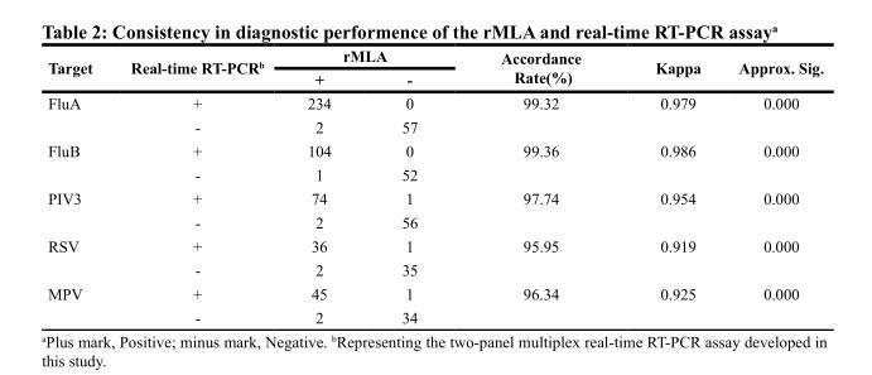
<table><thead><tr><td rowspan="2">Target</td><td rowspan="2">Real-time RT-PCR<sup>b</sup></td><td colspan="2">rMLA</td><td rowspan="2">Accordance Rate(%)</td><td rowspan="2">Kappa</td><td rowspan="2">Approx. Sig.</td></tr><tr><td>+</td><td>-</td></tr></thead><tbody><tr><td rowspan="2">FluA</td><td>+</td><td>234</td><td>0</td><td>99.32</td><td>0.979</td><td>0.000</td></tr><tr><td>-</td><td>2</td><td>57</td><td></td><td></td><td></td></tr><tr><td rowspan="2">FluB</td><td>+</td><td>104</td><td>0</td><td>99.36</td><td>0.986</td><td>0.000</td></tr><tr><td>-</td><td>1</td><td>52</td><td></td><td></td><td></td></tr><tr><td rowspan="2">PIV3</td><td>+</td><td>74</td><td>1</td><td>97.74</td><td>0.954</td><td>0.000</td></tr><tr><td>-</td><td>2</td><td>56</td><td></td><td></td><td></td></tr><tr><td rowspan="2">RSV</td><td>+</td><td>36</td><td>1</td><td>95.95</td><td>0.919</td><td>0.000</td></tr><tr><td>-</td><td>2</td><td>35</td><td></td><td></td><td></td></tr><tr><td rowspan="2">MPV</td><td>+</td><td>45</td><td>1</td><td>96.34</td><td>0.925</td><td>0.000</td></tr><tr><td>-</td><td>2</td><td>34</td><td></td><td></td><td></td></tr></tbody></table>